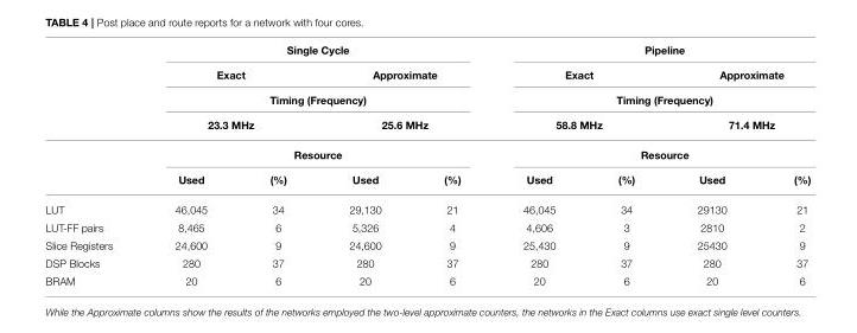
<table><thead><tr><td rowspan="6"></td><td colspan="4">Single Cycle</td><td colspan="4">Pipeline</td></tr><tr><td colspan="2">Exact</td><td colspan="2">Approximate</td><td colspan="2">Exact</td><td colspan="2">Approximate</td></tr><tr><td colspan="4">Timing (Frequency)</td><td colspan="4">Timing (Frequency)</td></tr><tr><td colspan="2">23.3 MHz</td><td colspan="2">25.6 MHz</td><td colspan="2">58.8 MHz</td><td colspan="2">71.4 MHz</td></tr><tr><td colspan="4">Resource</td><td colspan="4">Resource</td></tr><tr><td>Used</td><td>(%)</td><td>Used</td><td>(%)</td><td>Used</td><td>(%)</td><td>Used</td><td>(%)</td></tr></thead><tbody><tr><td>LUT</td><td>46,045</td><td>34</td><td>29,130</td><td>21</td><td>46,045</td><td>34</td><td>29130</td><td>21</td></tr><tr><td>LUT-FF pairs</td><td>8,465</td><td>6</td><td>5,326</td><td>4</td><td>4,606</td><td>3</td><td>2810</td><td>2</td></tr><tr><td>Slice Registers</td><td>24,600</td><td>9</td><td>24,600</td><td>9</td><td>25,430</td><td>9</td><td>25430</td><td>9</td></tr><tr><td>DSP Blocks</td><td>280</td><td>37</td><td>280</td><td>37</td><td>280</td><td>37</td><td>280</td><td>37</td></tr><tr><td>BRAM</td><td>20</td><td>6</td><td>20</td><td>6</td><td>20</td><td>6</td><td>20</td><td>6</td></tr></tbody></table>